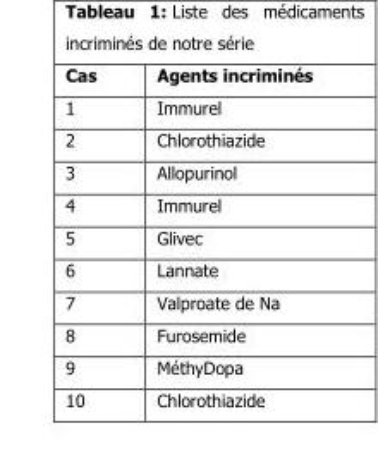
<table><thead><tr><td>Cas</td><td>Agents incriminés</td></tr></thead><tbody><tr><td>1</td><td>Immurel</td></tr><tr><td>2</td><td>Chlorothiazide</td></tr><tr><td>3</td><td>Allopurinol</td></tr><tr><td>4</td><td>Immurel</td></tr><tr><td>5</td><td>Glivec</td></tr><tr><td>6</td><td>Lannate</td></tr><tr><td>7</td><td>Valproate de Na</td></tr><tr><td>8</td><td>Furosemide</td></tr><tr><td>9</td><td>MéthyDopa</td></tr><tr><td>10</td><td>Chlorothiazide</td></tr></tbody></table>